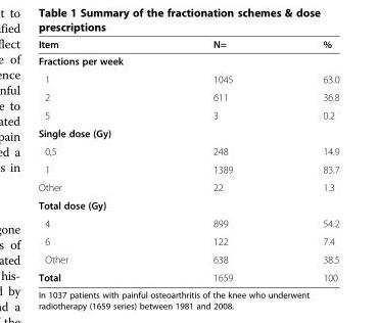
<table><thead><tr><td>Item</td><td>N=</td><td>%</td></tr></thead><tbody><tr><td colspan="3">Fractions per week</td></tr><tr><td>1</td><td>1045</td><td>63.0</td></tr><tr><td>2</td><td>611</td><td>36.8</td></tr><tr><td>5</td><td>3</td><td>0.2</td></tr><tr><td colspan="3">Single dose (Gy)</td></tr><tr><td>0,5</td><td>248</td><td>14.9</td></tr><tr><td>1</td><td>1389</td><td>83.7</td></tr><tr><td>Other</td><td>22</td><td>1.3</td></tr><tr><td colspan="3">Total dose (Gy)</td></tr><tr><td>4</td><td>899</td><td>54.2</td></tr><tr><td>6</td><td>122</td><td>7.4</td></tr><tr><td>Other</td><td>638</td><td>38.5</td></tr><tr><td>Total</td><td>1659</td><td>100</td></tr></tbody></table>